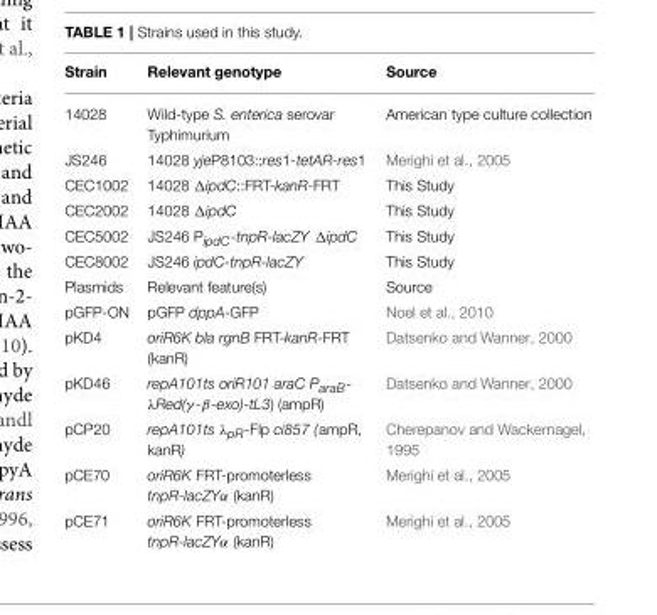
<table><thead><tr><td>Strain</td><td>Relevant genotype</td><td>Source</td></tr></thead><tbody><tr><td>14028</td><td>Wild-type S. enterica serovar Typhimurium</td><td>American type culture collection</td></tr><tr><td>JS246</td><td>14028 yjeP8103::res1-tetAR-res1</td><td>Merighi et al., 2005</td></tr><tr><td>CEC1002</td><td>14028 ΔipdC::FRT-kanR-FRT</td><td>This Study</td></tr><tr><td>CEC2002</td><td>14028 ΔipdC</td><td>This Study</td></tr><tr><td>CEC5002</td><td>JS246 PipdC-tnpR-lacZY ΔipdC</td><td>This Study</td></tr><tr><td>CEC8002</td><td>JS246 ipdC-tnpR-lacZY</td><td>This Study</td></tr><tr><td>Plasmids</td><td>Relevant feature(s)</td><td>Source</td></tr><tr><td>pGFP-ON</td><td>pGFP dppA-GFP</td><td>Noel et al., 2010</td></tr><tr><td>pKD4</td><td>oriR6K bla rgnB FRT-kanR-FRT (kanR)</td><td>Datsenko and Wanner, 2000</td></tr><tr><td>pKD46</td><td>repA101ts oriR101 araC ParaB- λRed(γ -β-exo)-tL3) (ampR)</td><td>Datsenko and Wanner, 2000</td></tr><tr><td>pCP20</td><td>repA101ts λpR-Flp ci857 (ampR, kanR)</td><td>Cherepanov and Wackernagel, 1995</td></tr><tr><td>pCE70</td><td>oriR6K FRT-promoterless tnpR-lacZYα (kanR)</td><td>Merighi et al., 2005</td></tr><tr><td>pCE71</td><td>oriR6K FRT-promoterless tnpR-lacZYα (kanR)</td><td>Merighi et al., 2005</td></tr></tbody></table>